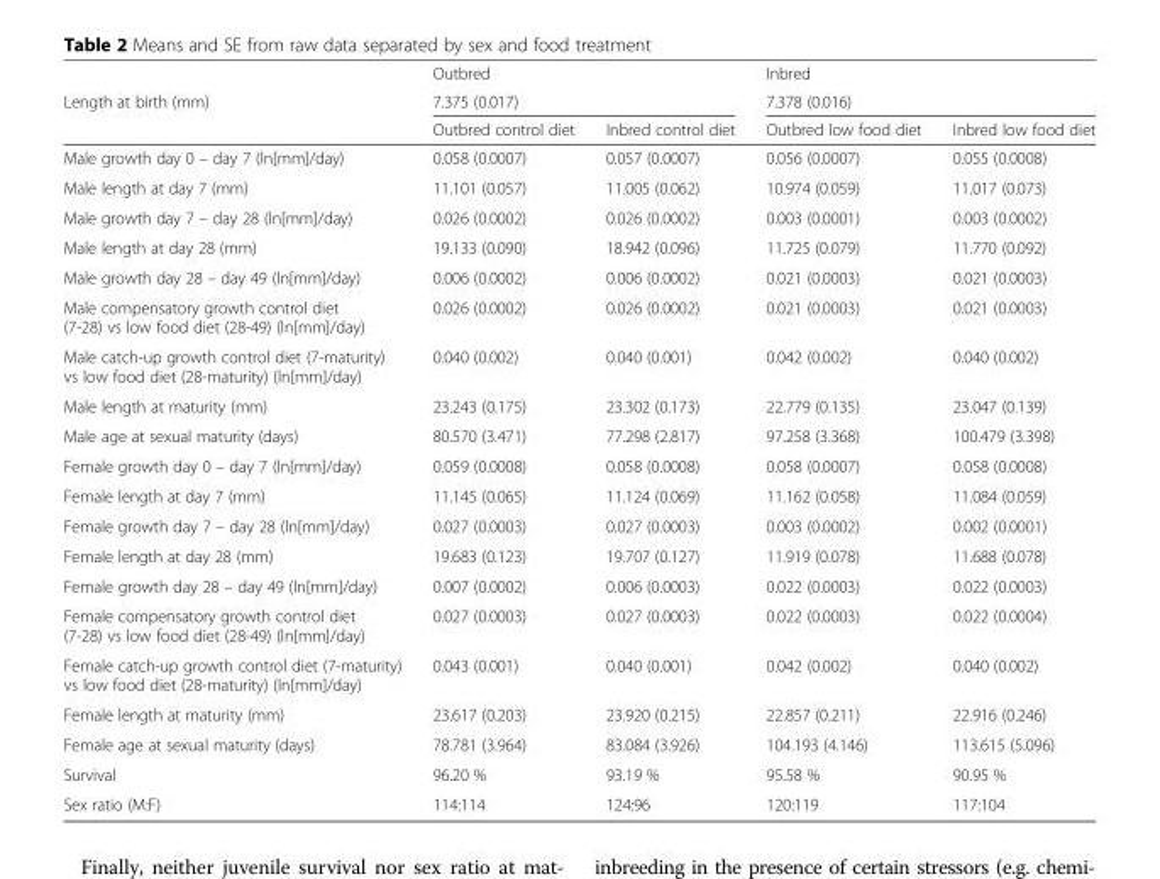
<table><thead><tr><td rowspan="3">Length at birth (mm)</td><td rowspan="2" colspan="2">Outbred 7.375 (0.017)</td><td rowspan="2" colspan="2">Inbred 7.378 (0.016)</td></tr><tr></tr><tr><td>Outbred control diet</td><td>Inbred control diet</td><td>Outbred low food diet</td><td>Inbred low food diet</td></tr></thead><tbody><tr><td>Male growth day 0 – day 7 (ln[mm]/day)</td><td>0.058 (0.0007)</td><td>0.057 (0.0007)</td><td>0.056 (0.0007)</td><td>0.055 (0.0008)</td></tr><tr><td>Male length at day 7 (mm)</td><td>11.101 (0.057)</td><td>11.005 (0.062)</td><td>10.974 (0.059)</td><td>11.017 (0.073)</td></tr><tr><td>Male growth day 7 – day 28 (ln[mm]/day)</td><td>0.026 (0.0002)</td><td>0.026 (0.0002)</td><td>0.003 (0.0001)</td><td>0.003 (0.0002)</td></tr><tr><td>Male length at day 28 (mm)</td><td>19.133 (0.090)</td><td>18.942 (0.096)</td><td>11.725 (0.079)</td><td>11.770 (0.092)</td></tr><tr><td>Male growth day 28 – day 49 (ln[mm]/day)</td><td>0.006 (0.0002)</td><td>0.006 (0.0002)</td><td>0.021 (0.0003)</td><td>0.021 (0.0003)</td></tr><tr><td>Male compensatory growth control diet (7-28) vs low food diet (28-49) (ln[mm]/day)</td><td>0.026 (0.0002)</td><td>0.026 (0.0002)</td><td>0.021 (0.0003)</td><td>0.021 (0.0003)</td></tr><tr><td>Male catch-up growth control diet (7-maturity) vs low food diet (28-maturity) (ln[mm]/day)</td><td>0.040 (0.002)</td><td>0.040 (0.001)</td><td>0.042 (0.002)</td><td>0.040 (0.002)</td></tr><tr><td>Male length at maturity (mm)</td><td>23.243 (0.175)</td><td>23.302 (0.173)</td><td>22.779 (0.135)</td><td>23.047 (0.139)</td></tr><tr><td>Male age at sexual maturity (days)</td><td>80.570 (3.471)</td><td>77.298 (2.817)</td><td>97.258 (3.368)</td><td>100.479 (3.398)</td></tr><tr><td>Female growth day 0 – day 7 (ln[mm]/day)</td><td>0.059 (0.0008)</td><td>0.058 (0.0008)</td><td>0.058 (0.0007)</td><td>0.058 (0.0008)</td></tr><tr><td>Female length at day 7 (mm)</td><td>11.145 (0.065)</td><td>11.124 (0.069)</td><td>11.162 (0.058)</td><td>11.084 (0.059)</td></tr><tr><td>Female growth day 7 – day 28 (ln[mm]/day)</td><td>0.027 (0.0003)</td><td>0.027 (0.0003)</td><td>0.003 (0.0002)</td><td>0.002 (0.0001)</td></tr><tr><td>Female length at day 28 (mm)</td><td>19.683 (0.123)</td><td>19.707 (0.127)</td><td>11.919 (0.078)</td><td>11.688 (0.078)</td></tr><tr><td>Female growth day 28 – day 49 (ln[mm]/day)</td><td>0.007 (0.0002)</td><td>0.006 (0.0003)</td><td>0.022 (0.0003)</td><td>0.022 (0.0003)</td></tr><tr><td>Female compensatory growth control diet (7-28) vs low food diet (28-49) (ln[mm]/day)</td><td>0.027 (0.0003)</td><td>0.027 (0.0003)</td><td>0.022 (0.0003)</td><td>0.022 (0.0004)</td></tr><tr><td>Female catch-up growth control diet (7-maturity) vs low food diet (28-maturity) (ln[mm]/day)</td><td>0.043 (0.001)</td><td>0.040 (0.001)</td><td>0.042 (0.002)</td><td>0.040 (0.002)</td></tr><tr><td>Female length at maturity (mm)</td><td>23.617 (0.203)</td><td>23.920 (0.215)</td><td>22.857 (0.211)</td><td>22.916 (0.246)</td></tr><tr><td>Female age at sexual maturity (days)</td><td>78.781 (3.964)</td><td>83.084 (3.926)</td><td>104.193 (4.146)</td><td>113.615 (5.096)</td></tr><tr><td>Survival</td><td>96.20 %</td><td>93.19 %</td><td>95.58 %</td><td>90.95 %</td></tr><tr><td>Sex ratio (M:F)</td><td>114:114</td><td>124:96</td><td>120:119</td><td>117:104</td></tr></tbody></table>